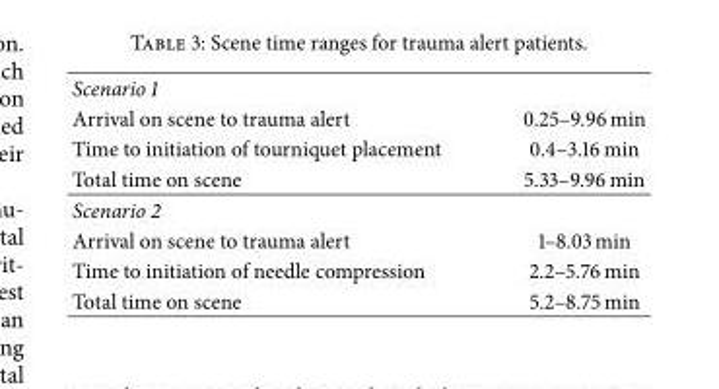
<table><tbody><tr><td colspan="2">Scenario 1</td></tr><tr><td>Arrival on scene to trauma alert</td><td>0.25–9.96 min</td></tr><tr><td>Time to initiation of tourniquet placement</td><td>0.4–3.16 min</td></tr><tr><td>Total time on scene</td><td>5.33–9.96 min</td></tr><tr><td colspan="2">Scenario 2</td></tr><tr><td>Arrival on scene to trauma alert</td><td>1–8.03 min</td></tr><tr><td>Time to initiation of needle compression</td><td>2.2–5.76 min</td></tr><tr><td>Total time on scene</td><td>5.2–8.75 min</td></tr></tbody></table>